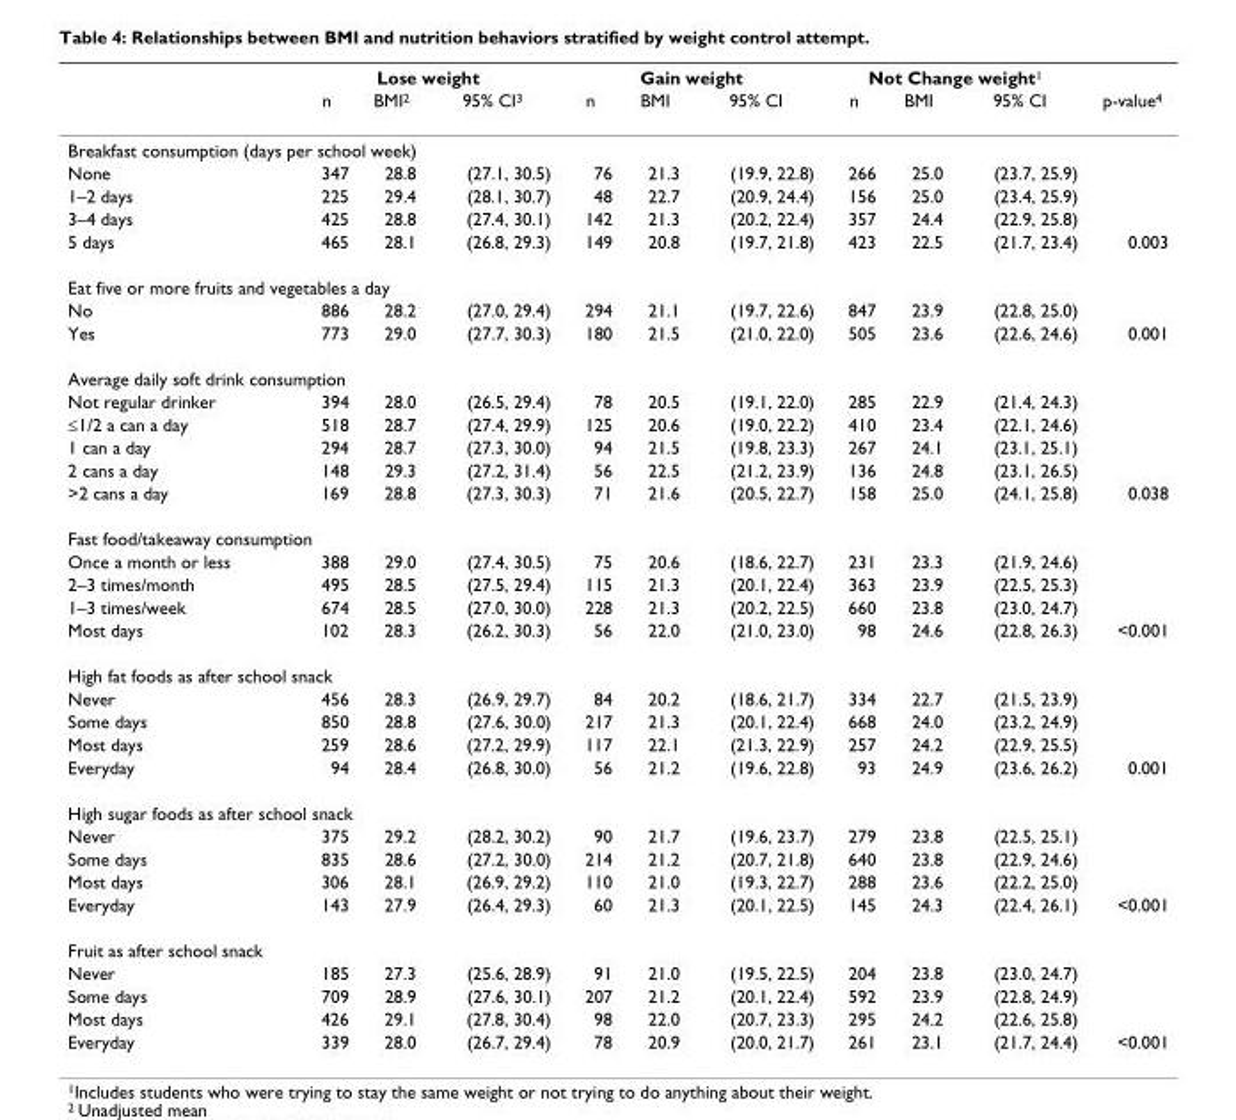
<table><thead><tr><td rowspan="2"></td><td colspan="3">Lose weight</td><td colspan="3">Gain weight</td><td colspan="3">Not Change weight<sup>1</sup></td><td rowspan="2">p-value<sup>4</sup></td></tr><tr><td>n</td><td>BMI<sup>2</sup></td><td>95% CI<sup>3</sup></td><td>n</td><td>BMI</td><td>95% CI</td><td>n</td><td>BMI</td><td>95% CI</td></tr></thead><tbody><tr><td colspan="11">Breakfast consumption (days per school week)</td></tr><tr><td>None</td><td>347</td><td>28.8</td><td>(27.1, 30.5)</td><td>76</td><td>21.3</td><td>(19.9, 22.8)</td><td>266</td><td>25.0</td><td>(23.7, 25.9)</td><td></td></tr><tr><td>1–2 days</td><td>225</td><td>29.4</td><td>(28.1, 30.7)</td><td>48</td><td>22.7</td><td>(20.9, 24.4)</td><td>156</td><td>25.0</td><td>(23.4, 25.9)</td><td></td></tr><tr><td>3–4 days</td><td>425</td><td>28.8</td><td>(27.4, 30.1)</td><td>142</td><td>21.3</td><td>(20.2, 22.4)</td><td>357</td><td>24.4</td><td>(22.9, 25.8)</td><td></td></tr><tr><td>5 days</td><td>465</td><td>28.1</td><td>(26.8, 29.3)</td><td>149</td><td>20.8</td><td>(19.7, 21.8)</td><td>423</td><td>22.5</td><td>(21.7, 23.4)</td><td>0.003</td></tr><tr><td colspan="11">Eat five or more fruits and vegetables a day</td></tr><tr><td>No</td><td>886</td><td>28.2</td><td>(27.0, 29.4)</td><td>294</td><td>21.1</td><td>(19.7, 22.6)</td><td>847</td><td>23.9</td><td>(22.8, 25.0)</td><td></td></tr><tr><td>Yes</td><td>773</td><td>29.0</td><td>(27.7, 30.3)</td><td>180</td><td>21.5</td><td>(21.0, 22.0)</td><td>505</td><td>23.6</td><td>(22.6, 24.6)</td><td>0.001</td></tr><tr><td colspan="11">Average daily soft drink consumption</td></tr><tr><td>Not regular drinker</td><td>394</td><td>28.0</td><td>(26.5, 29.4)</td><td>78</td><td>20.5</td><td>(19.1, 22.0)</td><td>285</td><td>22.9</td><td>(21.4, 24.3)</td><td></td></tr><tr><td>≤1/2 a can a day</td><td>518</td><td>28.7</td><td>(27.4, 29.9)</td><td>125</td><td>20.6</td><td>(19.0, 22.2)</td><td>410</td><td>23.4</td><td>(22.1, 24.6)</td><td></td></tr><tr><td>1 can a day</td><td>294</td><td>28.7</td><td>(27.3, 30.0)</td><td>94</td><td>21.5</td><td>(19.8, 23.3)</td><td>267</td><td>24.1</td><td>(23.1, 25.1)</td><td></td></tr><tr><td>2 cans a day</td><td>148</td><td>29.3</td><td>(27.2, 31.4)</td><td>56</td><td>22.5</td><td>(21.2, 23.9)</td><td>136</td><td>24.8</td><td>(23.1, 26.5)</td><td></td></tr><tr><td>&gt;2 cans a day</td><td>169</td><td>28.8</td><td>(27.3, 30.3)</td><td>71</td><td>21.6</td><td>(20.5, 22.7)</td><td>158</td><td>25.0</td><td>(24.1, 25.8)</td><td>0.038</td></tr><tr><td colspan="11">Fast food/takeaway consumption</td></tr><tr><td>Once a month or less</td><td>388</td><td>29.0</td><td>(27.4, 30.5)</td><td>75</td><td>20.6</td><td>(18.6, 22.7)</td><td>231</td><td>23.3</td><td>(21.9, 24.6)</td><td></td></tr><tr><td>2–3 times/month</td><td>495</td><td>28.5</td><td>(27.5, 29.4)</td><td>115</td><td>21.3</td><td>(20.1, 22.4)</td><td>363</td><td>23.9</td><td>(22.5, 25.3)</td><td></td></tr><tr><td>1–3 times/week</td><td>674</td><td>28.5</td><td>(27.0, 30.0)</td><td>228</td><td>21.3</td><td>(20.2, 22.5)</td><td>660</td><td>23.8</td><td>(23.0, 24.7)</td><td></td></tr><tr><td>Most days</td><td>102</td><td>28.3</td><td>(26.2, 30.3)</td><td>56</td><td>22.0</td><td>(21.0, 23.0)</td><td>98</td><td>24.6</td><td>(22.8, 26.3)</td><td>&lt;0.001</td></tr><tr><td colspan="11">High fat foods as after school snack</td></tr><tr><td>Never</td><td>456</td><td>28.3</td><td>(26.9, 29.7)</td><td>84</td><td>20.2</td><td>(18.6, 21.7)</td><td>334</td><td>22.7</td><td>(21.5, 23.9)</td><td></td></tr><tr><td>Some days</td><td>850</td><td>28.8</td><td>(27.6, 30.0)</td><td>217</td><td>21.3</td><td>(20.1, 22.4)</td><td>668</td><td>24.0</td><td>(23.2, 24.9)</td><td></td></tr><tr><td>Most days</td><td>259</td><td>28.6</td><td>(27.2, 29.9)</td><td>117</td><td>22.1</td><td>(21.3, 22.9)</td><td>257</td><td>24.2</td><td>(22.9, 25.5)</td><td></td></tr><tr><td>Everyday</td><td>94</td><td>28.4</td><td>(26.8, 30.0)</td><td>56</td><td>21.2</td><td>(19.6, 22.8)</td><td>93</td><td>24.9</td><td>(23.6, 26.2)</td><td>0.001</td></tr><tr><td colspan="11">High sugar foods as after school snack</td></tr><tr><td>Never</td><td>375</td><td>29.2</td><td>(28.2, 30.2)</td><td>90</td><td>21.7</td><td>(19.6, 23.7)</td><td>279</td><td>23.8</td><td>(22.5, 25.1)</td><td></td></tr><tr><td>Some days</td><td>835</td><td>28.6</td><td>(27.2, 30.0)</td><td>214</td><td>21.2</td><td>(20.7, 21.8)</td><td>640</td><td>23.8</td><td>(22.9, 24.6)</td><td></td></tr><tr><td>Most days</td><td>306</td><td>28.1</td><td>(26.9, 29.2)</td><td>110</td><td>21.0</td><td>(19.3, 22.7)</td><td>288</td><td>23.6</td><td>(22.2, 25.0)</td><td></td></tr><tr><td>Everyday</td><td>143</td><td>27.9</td><td>(26.4, 29.3)</td><td>60</td><td>21.3</td><td>(20.1, 22.5)</td><td>145</td><td>24.3</td><td>(22.4, 26.1)</td><td>&lt;0.001</td></tr><tr><td colspan="11">Fruit as after school snack</td></tr><tr><td>Never</td><td>185</td><td>27.3</td><td>(25.6, 28.9)</td><td>91</td><td>21.0</td><td>(19.5, 22.5)</td><td>204</td><td>23.8</td><td>(23.0, 24.7)</td><td></td></tr><tr><td>Some days</td><td>709</td><td>28.9</td><td>(27.6, 30.1)</td><td>207</td><td>21.2</td><td>(20.1, 22.4)</td><td>592</td><td>23.9</td><td>(22.8, 24.9)</td><td></td></tr><tr><td>Most days</td><td>426</td><td>29.1</td><td>(27.8, 30.4)</td><td>98</td><td>22.0</td><td>(20.7, 23.3)</td><td>295</td><td>24.2</td><td>(22.6, 25.8)</td><td></td></tr><tr><td>Everyday</td><td>339</td><td>28.0</td><td>(26.7, 29.4)</td><td>78</td><td>20.9</td><td>(20.0, 21.7)</td><td>261</td><td>23.1</td><td>(21.7, 24.4)</td><td>&lt;0.001</td></tr></tbody></table>